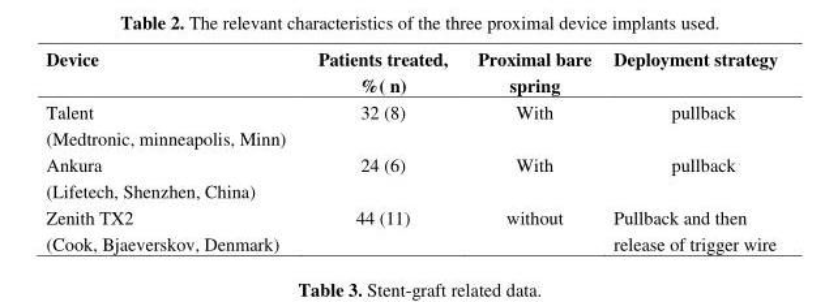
<table><thead><tr><td>Device</td><td>Patients treated, %( n)</td><td>Proximal bare spring</td><td>Deployment strategy</td></tr></thead><tbody><tr><td>Talent (Medtronic, minneapolis, Minn)</td><td>32 (8)</td><td>With</td><td>pullback</td></tr><tr><td>Ankura (Lifetech, Shenzhen, China)</td><td>24 (6)</td><td>With</td><td>pullback</td></tr><tr><td>Zenith TX2 (Cook, Bjaeverskov, Denmark)</td><td>44 (11)</td><td>without</td><td>Pullback and then release of trigger wire</td></tr></tbody></table>